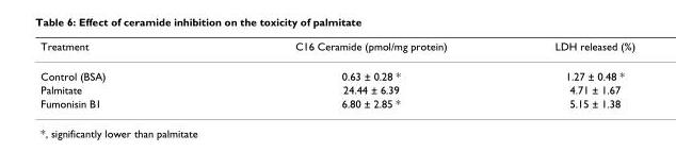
<table><thead><tr><td>Treatment</td><td>C16 Ceramide (pmol/mg protein)</td><td>LDH released (%)</td></tr></thead><tbody><tr><td>Control (BSA)</td><td>0.63 ± 0.28 *</td><td>1.27 ± 0.48 *</td></tr><tr><td>Palmitate</td><td>24.44 ± 6.39</td><td>4.71 ± 1.67</td></tr><tr><td>Fumonisin B1</td><td>6.80 ± 2.85 *</td><td>5.15 ± 1.38</td></tr></tbody></table>